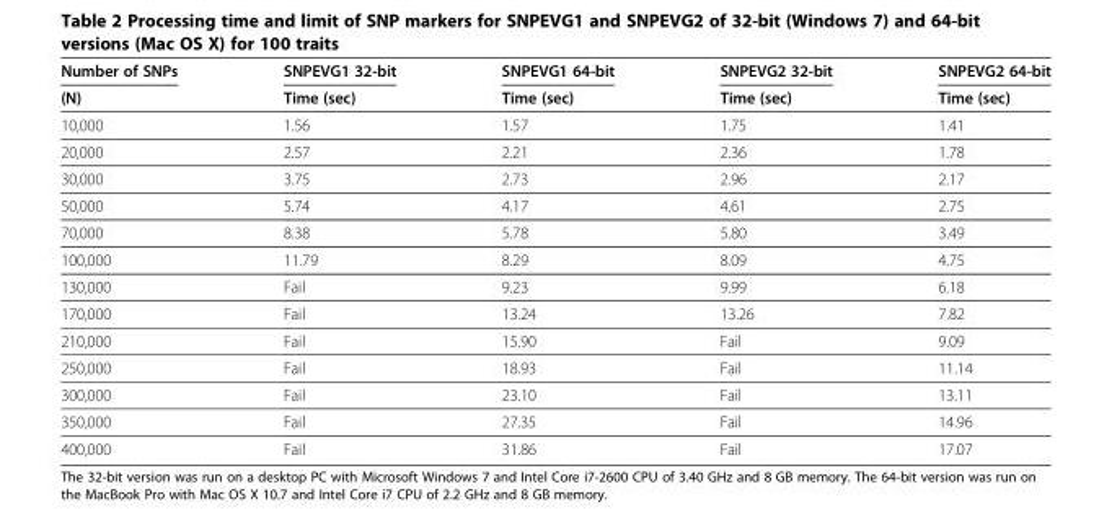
<table><thead><tr><td rowspan="2">Number of SNPs (N)</td><td rowspan="2">SNPEVG1 32-bit Time (sec)</td><td rowspan="2">SNPEVG1 64-bit Time (sec)</td><td rowspan="2">SNPEVG2 32-bit Time (sec)</td><td rowspan="2">SNPEVG2 64-bit Time (sec)</td></tr><tr></tr></thead><tbody><tr><td>10,000</td><td>1.56</td><td>1.57</td><td>1.75</td><td>1.41</td></tr><tr><td>20,000</td><td>2.57</td><td>2.21</td><td>2.36</td><td>1.78</td></tr><tr><td>30,000</td><td>3.75</td><td>2.73</td><td>2.96</td><td>2.17</td></tr><tr><td>50,000</td><td>5.74</td><td>4.17</td><td>4.61</td><td>2.75</td></tr><tr><td>70,000</td><td>8.38</td><td>5.78</td><td>5.80</td><td>3.49</td></tr><tr><td>100,000</td><td>11.79</td><td>8.29</td><td>8.09</td><td>4.75</td></tr><tr><td>130,000</td><td>Fail</td><td>9.23</td><td>9.99</td><td>6.18</td></tr><tr><td>170,000</td><td>Fail</td><td>13.24</td><td>13.26</td><td>7.82</td></tr><tr><td>210,000</td><td>Fail</td><td>15.90</td><td>Fail</td><td>9.09</td></tr><tr><td>250,000</td><td>Fail</td><td>18.93</td><td>Fail</td><td>11.14</td></tr><tr><td>300,000</td><td>Fail</td><td>23.10</td><td>Fail</td><td>13.11</td></tr><tr><td>350,000</td><td>Fail</td><td>27.35</td><td>Fail</td><td>14.96</td></tr><tr><td>400,000</td><td>Fail</td><td>31.86</td><td>Fail</td><td>17.07</td></tr></tbody></table>